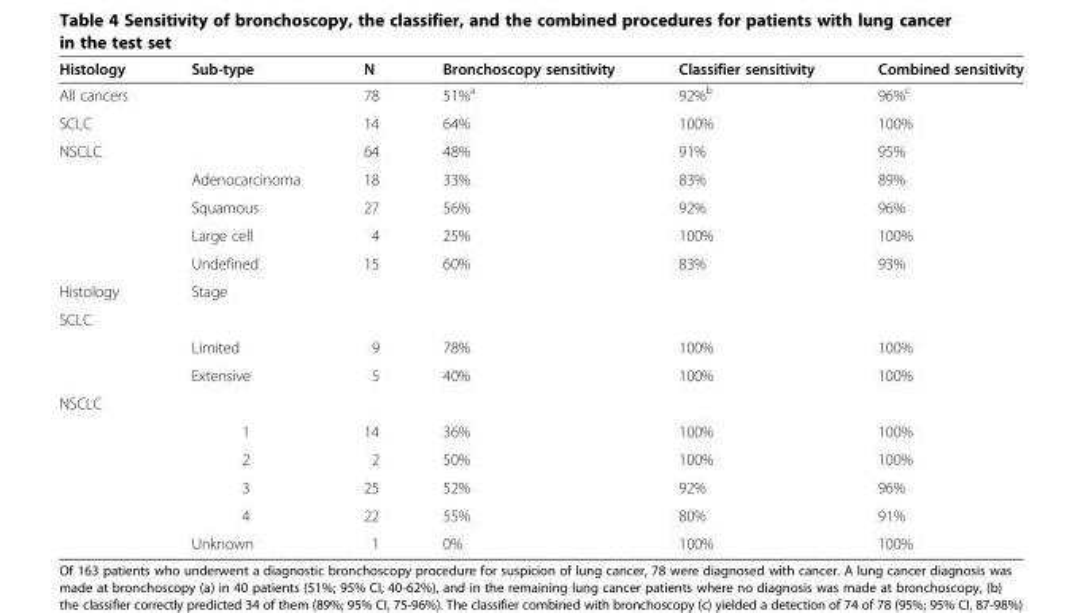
<table><thead><tr><td>Histology</td><td>Sub-type</td><td>N</td><td>Bronchoscopy sensitivity</td><td>Classifier sensitivity</td><td>Combined sensitivity</td></tr></thead><tbody><tr><td>All cancers</td><td></td><td>78</td><td>51%<sup>a</sup></td><td>92%<sup>b</sup></td><td>96%<sup>c</sup></td></tr><tr><td>SCLC</td><td></td><td>14</td><td>64%</td><td>100%</td><td>100%</td></tr><tr><td rowspan="5">NSCLC</td><td></td><td>64</td><td>48%</td><td>91%</td><td>95%</td></tr><tr><td>Adenocarcinoma</td><td>18</td><td>33%</td><td>83%</td><td>89%</td></tr><tr><td>Squamous</td><td>27</td><td>56%</td><td>92%</td><td>96%</td></tr><tr><td>Large cell</td><td>4</td><td>25%</td><td>100%</td><td>100%</td></tr><tr><td>Undefined</td><td>15</td><td>60%</td><td>83%</td><td>93%</td></tr><tr><td>Histology</td><td>Stage</td><td></td><td></td><td></td><td></td></tr><tr><td colspan="6">SCLC</td></tr><tr><td></td><td>Limited</td><td>9</td><td>78%</td><td>100%</td><td>100%</td></tr><tr><td></td><td>Extensive</td><td>5</td><td>40%</td><td>100%</td><td>100%</td></tr><tr><td colspan="6">NSCLC</td></tr><tr><td></td><td>1</td><td>14</td><td>36%</td><td>100%</td><td>100%</td></tr><tr><td></td><td>2</td><td>2</td><td>50%</td><td>100%</td><td>100%</td></tr><tr><td></td><td>3</td><td>25</td><td>52%</td><td>92%</td><td>96%</td></tr><tr><td></td><td>4</td><td>22</td><td>55%</td><td>80%</td><td>91%</td></tr><tr><td></td><td>Unknown</td><td>1</td><td>0%</td><td>100%</td><td>100%</td></tr></tbody></table>